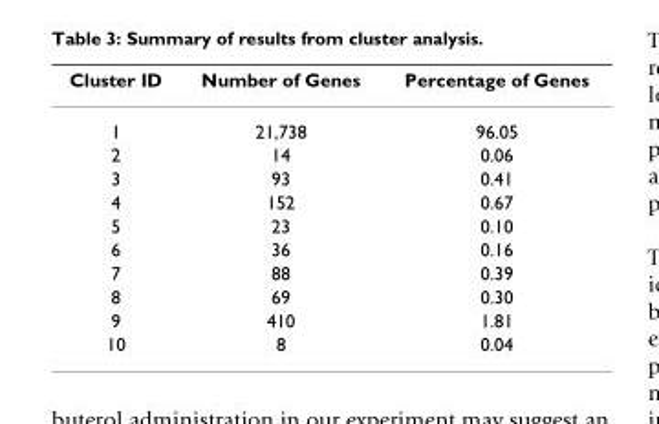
<table><thead><tr><td>Cluster ID</td><td>Number of Genes</td><td>Percentage of Genes</td></tr></thead><tbody><tr><td>1</td><td>21,738</td><td>96.05</td></tr><tr><td>2</td><td>14</td><td>0.06</td></tr><tr><td>3</td><td>93</td><td>0.41</td></tr><tr><td>4</td><td>152</td><td>0.67</td></tr><tr><td>5</td><td>23</td><td>0.10</td></tr><tr><td>6</td><td>36</td><td>0.16</td></tr><tr><td>7</td><td>88</td><td>0.39</td></tr><tr><td>8</td><td>69</td><td>0.30</td></tr><tr><td>9</td><td>410</td><td>1.81</td></tr><tr><td>10</td><td>8</td><td>0.04</td></tr></tbody></table>